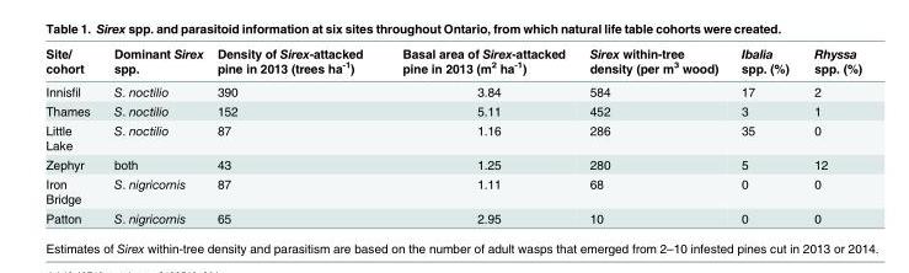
<table><thead><tr><td>Site/ cohort</td><td>Dominant Sirex spp.</td><td>Density of Sirex-attacked pine in 2013 (trees ha<sup>-1</sup>)</td><td>Basal area of Sirex-attacked pine in 2013 (m<sup>2</sup> ha<sup>-1</sup>)</td><td>Sirex within-tree density (per m<sup>3</sup> wood)</td><td>Ibalia spp. (%)</td><td>Rhyssa spp. (%)</td></tr></thead><tbody><tr><td>Innisfil</td><td>S. noctilio</td><td>390</td><td>3.84</td><td>584</td><td>17</td><td>2</td></tr><tr><td>Thames</td><td>S. noctilio</td><td>152</td><td>5.11</td><td>452</td><td>3</td><td>1</td></tr><tr><td>Little Lake</td><td>S. noctilio</td><td>87</td><td>1.16</td><td>286</td><td>35</td><td>0</td></tr><tr><td>Zephyr</td><td>both</td><td>43</td><td>1.25</td><td>280</td><td>5</td><td>12</td></tr><tr><td>Iron Bridge</td><td>S. nigricornis</td><td>87</td><td>1.11</td><td>68</td><td>0</td><td>0</td></tr><tr><td>Patton</td><td>S. nigricornis</td><td>65</td><td>2.95</td><td>10</td><td>0</td><td>0</td></tr></tbody></table>